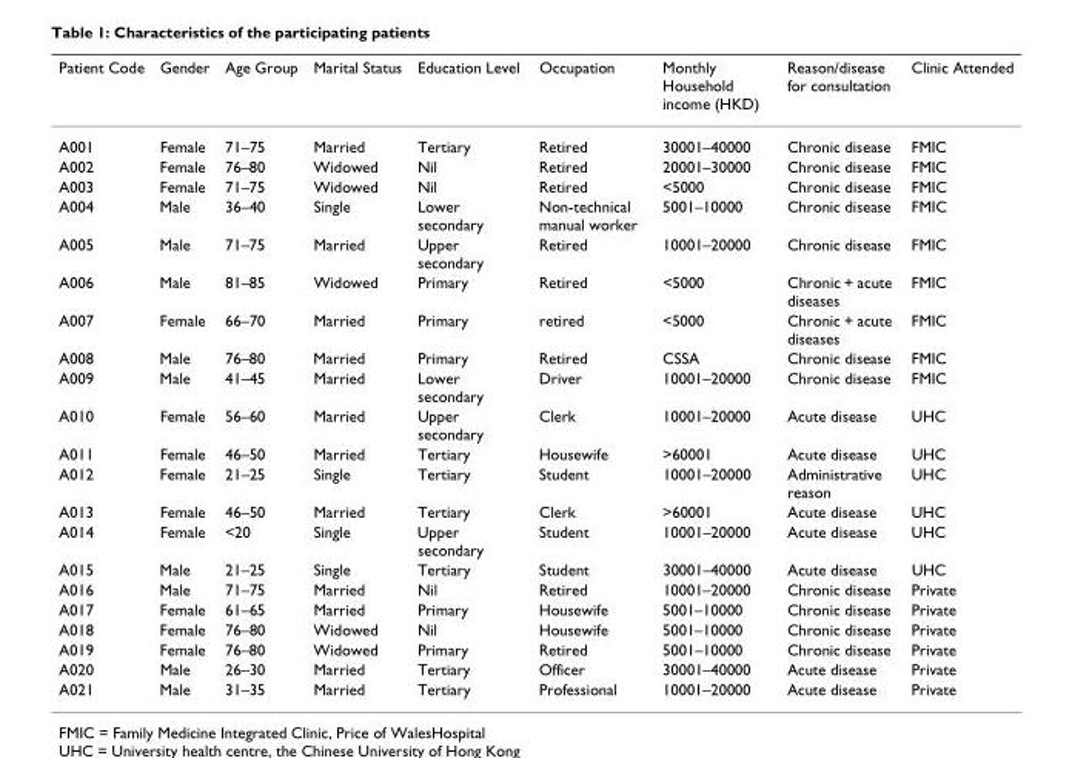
<table><thead><tr><td>Patient Code</td><td>Gender</td><td>Age Group</td><td>Marital Status</td><td>Education Level</td><td>Occupation</td><td>Monthly Household income (HKD)</td><td>Reason/disease for consultation</td><td>Clinic Attended</td></tr></thead><tbody><tr><td>A001</td><td>Female</td><td>71–75</td><td>Married</td><td>Tertiary</td><td>Retired</td><td>30001–40000</td><td>Chronic disease</td><td>FMIC</td></tr><tr><td>A002</td><td>Female</td><td>76–80</td><td>Widowed</td><td>Nil</td><td>Retired</td><td>20001–30000</td><td>Chronic disease</td><td>FMIC</td></tr><tr><td>A003</td><td>Female</td><td>71–75</td><td>Widowed</td><td>Nil</td><td>Retired</td><td>&lt;5000</td><td>Chronic disease</td><td>FMIC</td></tr><tr><td>A004</td><td>Male</td><td>36–40</td><td>Single</td><td>Lower secondary</td><td>Non-technical manual worker</td><td>5001–10000</td><td>Chronic disease</td><td>FMIC</td></tr><tr><td>A005</td><td>Male</td><td>71–75</td><td>Married</td><td>Upper secondary</td><td>Retired</td><td>10001–20000</td><td>Chronic disease</td><td>FMIC</td></tr><tr><td>A006</td><td>Male</td><td>81–85</td><td>Widowed</td><td>Primary</td><td>Retired</td><td>&lt;5000</td><td>Chronic + acute diseases</td><td>FMIC</td></tr><tr><td>A007</td><td>Female</td><td>66–70</td><td>Married</td><td>Primary</td><td>retired</td><td>&lt;5000</td><td>Chronic + acute diseases</td><td>FMIC</td></tr><tr><td>A008</td><td>Male</td><td>76–80</td><td>Married</td><td>Primary</td><td>Retired</td><td>CSSA</td><td>Chronic disease</td><td>FMIC</td></tr><tr><td>A009</td><td>Male</td><td>41–45</td><td>Married</td><td>Lower secondary</td><td>Driver</td><td>10001–20000</td><td>Chronic disease</td><td>FMIC</td></tr><tr><td>A010</td><td>Female</td><td>56–60</td><td>Married</td><td>Upper secondary</td><td>Clerk</td><td>10001–20000</td><td>Acute disease</td><td>UHC</td></tr><tr><td>A011</td><td>Female</td><td>46–50</td><td>Married</td><td>Tertiary</td><td>Housewife</td><td>&gt;60001</td><td>Acute disease</td><td>UHC</td></tr><tr><td>A012</td><td>Female</td><td>21–25</td><td>Single</td><td>Tertiary</td><td>Student</td><td>10001–20000</td><td>Administrative reason</td><td>UHC</td></tr><tr><td>A013</td><td>Female</td><td>46–50</td><td>Married</td><td>Tertiary</td><td>Clerk</td><td>&gt;60001</td><td>Acute disease</td><td>UHC</td></tr><tr><td>A014</td><td>Female</td><td>&lt;20</td><td>Single</td><td>Upper secondary</td><td>Student</td><td>10001–20000</td><td>Acute disease</td><td>UHC</td></tr><tr><td>A015</td><td>Male</td><td>21–25</td><td>Single</td><td>Tertiary</td><td>Student</td><td>30001–40000</td><td>Acute disease</td><td>UHC</td></tr><tr><td>A016</td><td>Male</td><td>71–75</td><td>Married</td><td>Nil</td><td>Retired</td><td>10001–20000</td><td>Chronic disease</td><td>Private</td></tr><tr><td>A017</td><td>Female</td><td>61–65</td><td>Married</td><td>Primary</td><td>Housewife</td><td>5001–10000</td><td>Chronic disease</td><td>Private</td></tr><tr><td>A018</td><td>Female</td><td>76–80</td><td>Widowed</td><td>Nil</td><td>Housewife</td><td>5001–10000</td><td>Chronic disease</td><td>Private</td></tr><tr><td>A019</td><td>Female</td><td>76–80</td><td>Widowed</td><td>Primary</td><td>Retired</td><td>5001–10000</td><td>Chronic disease</td><td>Private</td></tr><tr><td>A020</td><td>Male</td><td>26–30</td><td>Married</td><td>Tertiary</td><td>Officer</td><td>30001–40000</td><td>Acute disease</td><td>Private</td></tr><tr><td>A021</td><td>Male</td><td>31–35</td><td>Married</td><td>Tertiary</td><td>Professional</td><td>10001–20000</td><td>Acute disease</td><td>Private</td></tr></tbody></table>